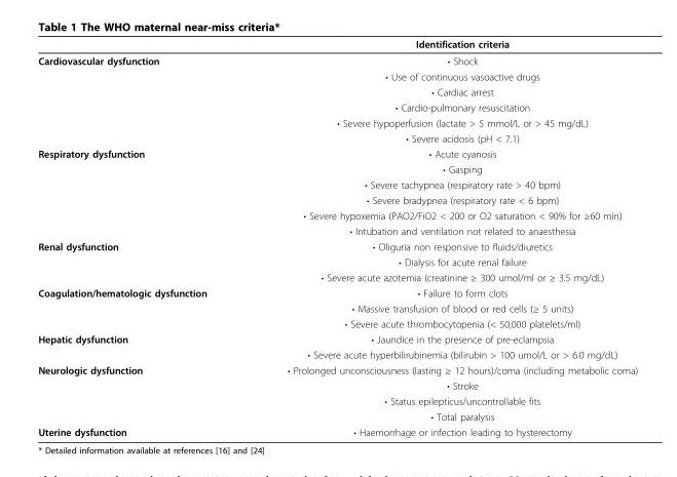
<table><thead><tr><td></td><td>Identification criteria</td></tr></thead><tbody><tr><td rowspan="6">Cardiovascular dysfunction</td><td>• Shock</td></tr><tr><td>• Use of continuous vasoactive drugs</td></tr><tr><td>• Cardiac arrest</td></tr><tr><td>• Cardio-pulmonary resuscitation</td></tr><tr><td>• Severe hypoperfusion (lactate &gt; 5 mmol/L or &gt; 45 mg/dL)</td></tr><tr><td>• Severe acidosis (pH &lt; 7.1)</td></tr><tr><td rowspan="6">Respiratory dysfunction</td><td>• Acute cyanosis</td></tr><tr><td>• Gasping</td></tr><tr><td>• Severe tachypnea (respiratory rate &gt; 40 bpm)</td></tr><tr><td>• Severe bradypnea (respiratory rate &lt; 6 bpm)</td></tr><tr><td>• Severe hypoxemia (PAO2/FiO2 &lt; 200 or O2 saturation &lt; 90% for ≥60 min)</td></tr><tr><td>• Intubation and ventilation not related to anaesthesia</td></tr><tr><td rowspan="3">Renal dysfunction</td><td>• Oliguria non responsive to fluids/diuretics</td></tr><tr><td>• Dialysis for acute renal failure</td></tr><tr><td>• Severe acute azotemia (creatinine ≥ 300 umol/ml or ≥ 3.5 mg/dL)</td></tr><tr><td rowspan="3">Coagulation/hematologic dysfunction</td><td>• Failure to form clots</td></tr><tr><td>• Massive transfusion of blood or red cells (≥ 5 units)</td></tr><tr><td>• Severe acute thrombocytopenia (&lt; 50,000 platelets/ml)</td></tr><tr><td rowspan="2">Hepatic dysfunction</td><td>• Jaundice in the presence of pre-eclampsia</td></tr><tr><td>• Severe acute hyperbilirubinemia (bilirubin &gt; 100 umol/L or &gt; 6.0 mg/dL)</td></tr><tr><td rowspan="4">Neurologic dysfunction</td><td>• Prolonged unconsciousness (lasting ≥ 12 hours)/coma (including metabolic coma)</td></tr><tr><td>• Stroke</td></tr><tr><td>• Status epilepticus/uncontrollable fits</td></tr><tr><td>• Total paralysis</td></tr><tr><td>Uterine dysfunction</td><td>• Haemorrhage or infection leading to hysterectomy</td></tr></tbody></table>